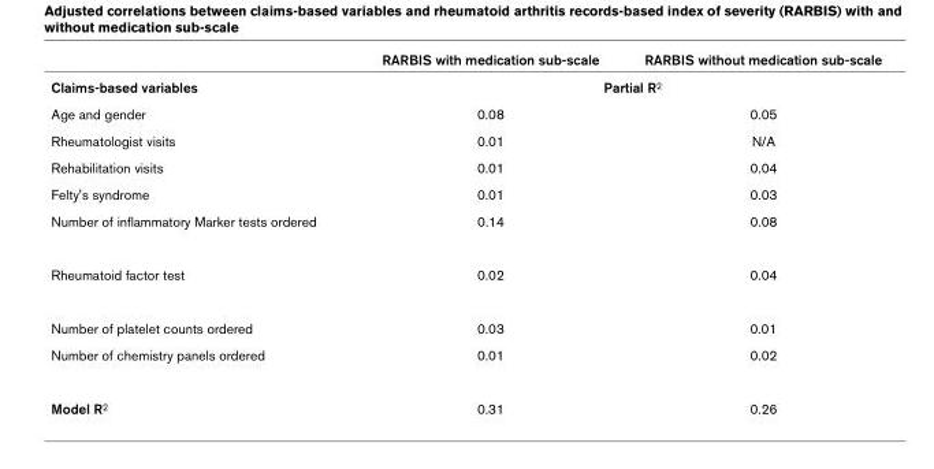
<table><thead><tr><td></td><td>RARBIS with medication sub-scale</td><td>RARBIS without medication sub-scale</td></tr></thead><tbody><tr><td>Claims-based variables</td><td colspan="2">Partial R<sup>2</sup></td></tr><tr><td>Age and gender</td><td>0.08</td><td>0.05</td></tr><tr><td>Rheumatologist visits</td><td>0.01</td><td>N/A</td></tr><tr><td>Rehabilitation visits</td><td>0.01</td><td>0.04</td></tr><tr><td>Felty&#x27;s syndrome</td><td>0.01</td><td>0.03</td></tr><tr><td>Number of inflammatory Marker tests ordered</td><td>0.14</td><td>0.08</td></tr><tr><td>Rheumatoid factor test</td><td>0.02</td><td>0.04</td></tr><tr><td>Number of platelet counts ordered</td><td>0.03</td><td>0.01</td></tr><tr><td>Number of chemistry panels ordered</td><td>0.01</td><td>0.02</td></tr><tr><td>Model R<sup>2</sup></td><td>0.31</td><td>0.26</td></tr></tbody></table>